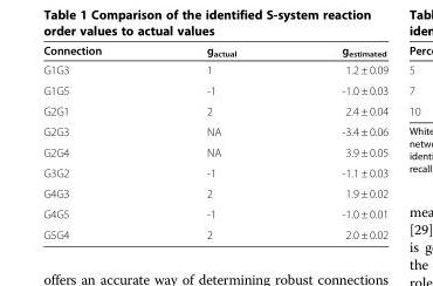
<table><thead><tr><td>Connection</td><td>g<sub>actual</sub></td><td>g<sub>estimated</sub></td></tr></thead><tbody><tr><td>G1G3</td><td>1</td><td>1.2 ± 0.09</td></tr><tr><td>G1G5</td><td>-1</td><td>-1.0 ± 0.03</td></tr><tr><td>G2G1</td><td>2</td><td>2.4 ± 0.04</td></tr><tr><td>G2G3</td><td>NA</td><td>-3.4 ± 0.06</td></tr><tr><td>G2G4</td><td>NA</td><td>3.9 ± 0.05</td></tr><tr><td>G3G2</td><td>-1</td><td>-1.1 ± 0.03</td></tr><tr><td>G4G3</td><td>2</td><td>1.9 ± 0.02</td></tr><tr><td>G4G5</td><td>-1</td><td>-1.0 ± 0.01</td></tr><tr><td>G5G4</td><td>2</td><td>2.0 ± 0.02</td></tr></tbody></table>